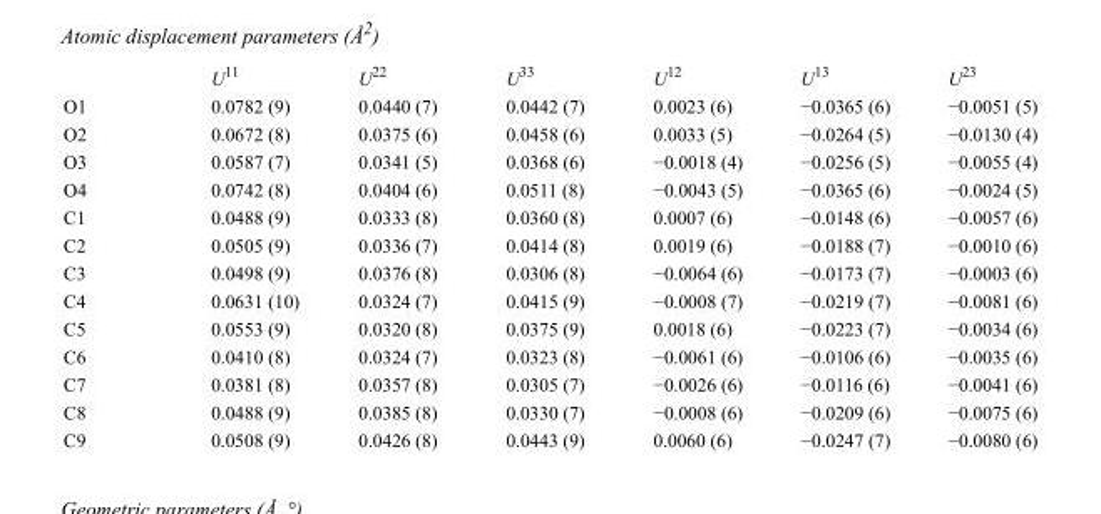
<table><thead><tr><td></td><td>U<sup>11</sup></td><td>U<sup>22</sup></td><td>U<sup>33</sup></td><td>U<sup>12</sup></td><td>U<sup>13</sup></td><td>U<sup>23</sup></td></tr></thead><tbody><tr><td>O1</td><td>0.0782 (9)</td><td>0.0440 (7)</td><td>0.0442 (7)</td><td>0.0023 (6)</td><td>−0.0365 (6)</td><td>−0.0051 (5)</td></tr><tr><td>O2</td><td>0.0672 (8)</td><td>0.0375 (6)</td><td>0.0458 (6)</td><td>0.0033 (5)</td><td>−0.0264 (5)</td><td>−0.0130 (4)</td></tr><tr><td>O3</td><td>0.0587 (7)</td><td>0.0341 (5)</td><td>0.0368 (6)</td><td>−0.0018 (4)</td><td>−0.0256 (5)</td><td>−0.0055 (4)</td></tr><tr><td>O4</td><td>0.0742 (8)</td><td>0.0404 (6)</td><td>0.0511 (8)</td><td>−0.0043 (5)</td><td>−0.0365 (6)</td><td>−0.0024 (5)</td></tr><tr><td>C1</td><td>0.0488 (9)</td><td>0.0333 (8)</td><td>0.0360 (8)</td><td>0.0007 (6)</td><td>−0.0148 (6)</td><td>−0.0057 (6)</td></tr><tr><td>C2</td><td>0.0505 (9)</td><td>0.0336 (7)</td><td>0.0414 (8)</td><td>0.0019 (6)</td><td>−0.0188 (7)</td><td>−0.0010 (6)</td></tr><tr><td>C3</td><td>0.0498 (9)</td><td>0.0376 (8)</td><td>0.0306 (8)</td><td>−0.0064 (6)</td><td>−0.0173 (7)</td><td>−0.0003 (6)</td></tr><tr><td>C4</td><td>0.0631 (10)</td><td>0.0324 (7)</td><td>0.0415 (9)</td><td>−0.0008 (7)</td><td>−0.0219 (7)</td><td>−0.0081 (6)</td></tr><tr><td>C5</td><td>0.0553 (9)</td><td>0.0320 (8)</td><td>0.0375 (9)</td><td>0.0018 (6)</td><td>−0.0223 (7)</td><td>−0.0034 (6)</td></tr><tr><td>C6</td><td>0.0410 (8)</td><td>0.0324 (7)</td><td>0.0323 (8)</td><td>−0.0061 (6)</td><td>−0.0106 (6)</td><td>−0.0035 (6)</td></tr><tr><td>C7</td><td>0.0381 (8)</td><td>0.0357 (8)</td><td>0.0305 (7)</td><td>−0.0026 (6)</td><td>−0.0116 (6)</td><td>−0.0041 (6)</td></tr><tr><td>C8</td><td>0.0488 (9)</td><td>0.0385 (8)</td><td>0.0330 (7)</td><td>−0.0008 (6)</td><td>−0.0209 (6)</td><td>−0.0075 (6)</td></tr><tr><td>C9</td><td>0.0508 (9)</td><td>0.0426 (8)</td><td>0.0443 (9)</td><td>0.0060 (6)</td><td>−0.0247 (7)</td><td>−0.0080 (6)</td></tr></tbody></table>